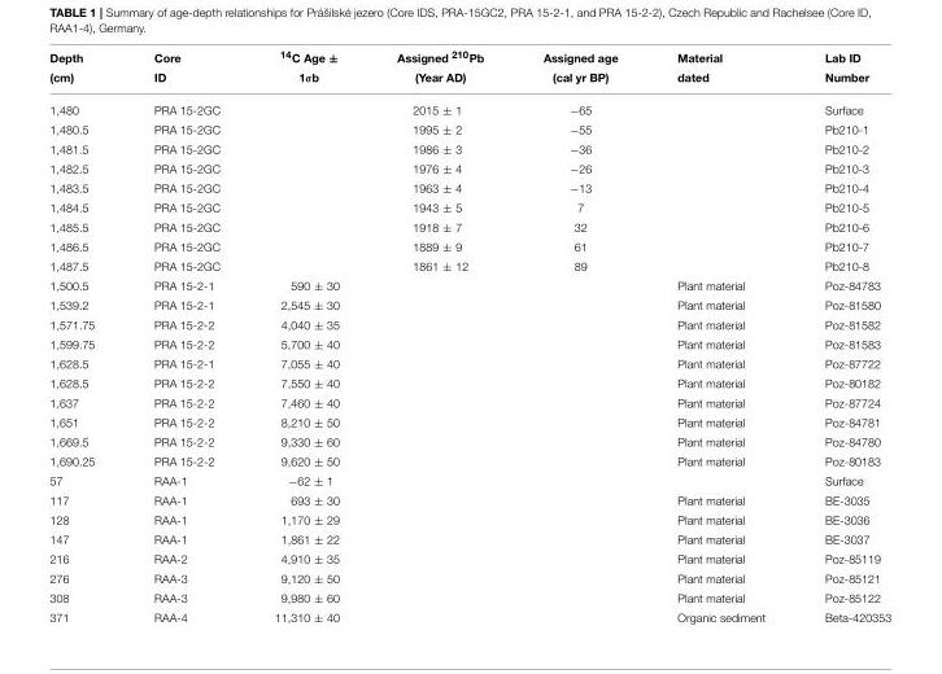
<table><thead><tr><td>Depth (cm)</td><td>Core ID</td><td><sup>14</sup>C Age ± 1σb</td><td>Assigned <sup>210</sup>Pb (Year AD)</td><td>Assigned age (cal yr BP)</td><td>Material dated</td><td>Lab ID Number</td></tr></thead><tbody><tr><td>1,480</td><td>PRA 15-2GC</td><td></td><td>2015 ± 1</td><td>−65</td><td></td><td>Surface</td></tr><tr><td>1,480.5</td><td>PRA 15-2GC</td><td></td><td>1995 ± 2</td><td>−55</td><td></td><td>Pb210-1</td></tr><tr><td>1,481.5</td><td>PRA 15-2GC</td><td></td><td>1986 ± 3</td><td>−36</td><td></td><td>Pb210-2</td></tr><tr><td>1,482.5</td><td>PRA 15-2GC</td><td></td><td>1976 ± 4</td><td>−26</td><td></td><td>Pb210-3</td></tr><tr><td>1,483.5</td><td>PRA 15-2GC</td><td></td><td>1963 ± 4</td><td>−13</td><td></td><td>Pb210-4</td></tr><tr><td>1,484.5</td><td>PRA 15-2GC</td><td></td><td>1943 ± 5</td><td>7</td><td></td><td>Pb210-5</td></tr><tr><td>1,485.5</td><td>PRA 15-2GC</td><td></td><td>1918 ± 7</td><td>32</td><td></td><td>Pb210-6</td></tr><tr><td>1,486.5</td><td>PRA 15-2GC</td><td></td><td>1889 ± 9</td><td>61</td><td></td><td>Pb210-7</td></tr><tr><td>1,487.5</td><td>PRA 15-2GC</td><td></td><td>1861 ± 12</td><td>89</td><td></td><td>Pb210-8</td></tr><tr><td>1,500.5</td><td>PRA 15-2-1</td><td>590 ± 30</td><td></td><td></td><td>Plant material</td><td>Poz-84783</td></tr><tr><td>1,539.2</td><td>PRA 15-2-1</td><td>2,545 ± 30</td><td></td><td></td><td>Plant material</td><td>Poz-81580</td></tr><tr><td>1,571.75</td><td>PRA 15-2-2</td><td>4,040 ± 35</td><td></td><td></td><td>Plant material</td><td>Poz-81582</td></tr><tr><td>1,599.75</td><td>PRA 15-2-2</td><td>5,700 ± 40</td><td></td><td></td><td>Plant material</td><td>Poz-81583</td></tr><tr><td>1,628.5</td><td>PRA 15-2-1</td><td>7,055 ± 40</td><td></td><td></td><td>Plant material</td><td>Poz-87722</td></tr><tr><td>1,628.5</td><td>PRA 15-2-2</td><td>7,550 ± 40</td><td></td><td></td><td>Plant material</td><td>Poz-80182</td></tr><tr><td>1,637</td><td>PRA 15-2-2</td><td>7,460 ± 40</td><td></td><td></td><td>Plant material</td><td>Poz-87724</td></tr><tr><td>1,651</td><td>PRA 15-2-2</td><td>8,210 ± 50</td><td></td><td></td><td>Plant material</td><td>Poz-84781</td></tr><tr><td>1,669.5</td><td>PRA 15-2-2</td><td>9,330 ± 60</td><td></td><td></td><td>Plant material</td><td>Poz-84780</td></tr><tr><td>1,690.25</td><td>PRA 15-2-2</td><td>9,620 ± 50</td><td></td><td></td><td>Plant material</td><td>Poz-80183</td></tr><tr><td>57</td><td>RAA-1</td><td>−62 ± 1</td><td></td><td></td><td></td><td>Surface</td></tr><tr><td>117</td><td>RAA-1</td><td>693 ± 30</td><td></td><td></td><td>Plant material</td><td>BE-3035</td></tr><tr><td>128</td><td>RAA-1</td><td>1,170 ± 29</td><td></td><td></td><td>Plant material</td><td>BE-3036</td></tr><tr><td>147</td><td>RAA-1</td><td>1,861 ± 22</td><td></td><td></td><td>Plant material</td><td>BE-3037</td></tr><tr><td>216</td><td>RAA-2</td><td>4,910 ± 35</td><td></td><td></td><td>Plant material</td><td>Poz-85119</td></tr><tr><td>276</td><td>RAA-3</td><td>9,120 ± 50</td><td></td><td></td><td>Plant material</td><td>Poz-85121</td></tr><tr><td>308</td><td>RAA-3</td><td>9,980 ± 60</td><td></td><td></td><td>Plant material</td><td>Poz-85122</td></tr><tr><td>371</td><td>RAA-4</td><td>11,310 ± 40</td><td></td><td></td><td>Organic sediment</td><td>Beta-420353</td></tr></tbody></table>